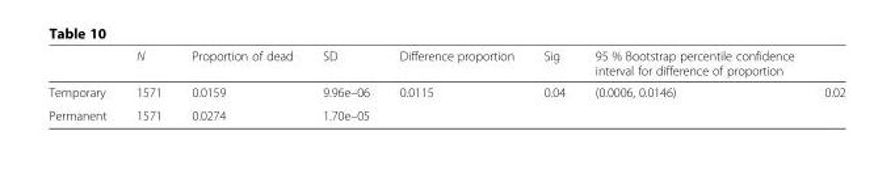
<table><thead><tr><td></td><td>N</td><td>Proportion of dead</td><td>SD</td><td>Difference proportion</td><td>Sig</td><td>95 % Bootstrap percentile confidence interval for difference of proportion</td><td></td></tr></thead><tbody><tr><td>Temporary</td><td>1571</td><td>0.0159</td><td>9.96e–06</td><td rowspan="2">0.0115</td><td rowspan="2">0.04</td><td rowspan="2">(0.0006, 0.0146)</td><td rowspan="2">0.02</td></tr><tr><td>Permanent</td><td>1571</td><td>0.0274</td><td>1.70e–05</td></tr></tbody></table>